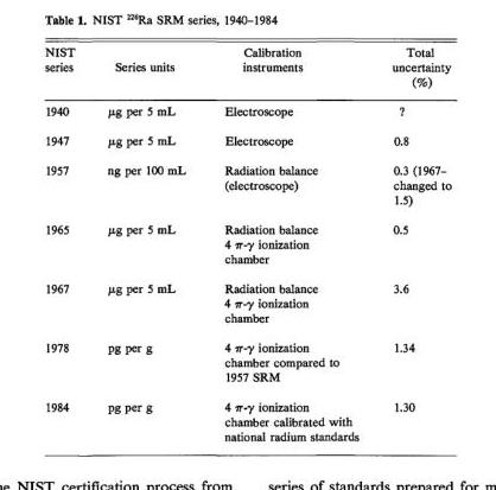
<table><thead><tr><td>NIST series</td><td>Series units</td><td>Calibration instruments</td><td>Total uncertainty (%)</td></tr></thead><tbody><tr><td>1940</td><td>fxg per 5 mL</td><td>Electroscope</td><td>?</td></tr><tr><td>1947</td><td>;ig per 5 mL</td><td>Electroscope</td><td>0.8</td></tr><tr><td>1957</td><td>ng per 100 mL</td><td>Radiation balance (electroscope)</td><td>0.3 (1967- changed to 1.5)</td></tr><tr><td>1965</td><td>;ig per 5 mL</td><td>Radiation balance 4 π-γ ionization chamber</td><td>0.5</td></tr><tr><td>1967</td><td>fig per 5 mL</td><td>Radiation balance 4 π-γ ionization chamber</td><td>3.6</td></tr><tr><td>1978</td><td>pg per g</td><td>4 π-γ ionization chamber compared to 1957 SRM</td><td>1.34</td></tr><tr><td>1984</td><td>Pg per g</td><td>4 π-γ ionization chamber calibrated with national radium standards</td><td>1.30</td></tr></tbody></table>